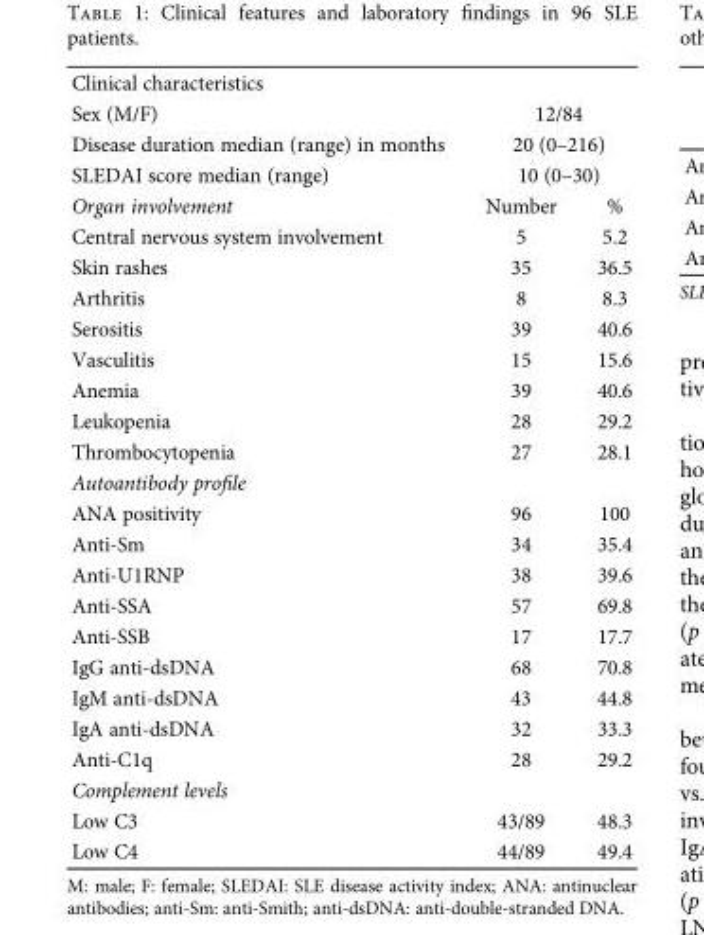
<table><tbody><tr><td colspan="3">Clinical characteristics</td></tr><tr><td>Sex (M/F)</td><td colspan="2">12/84</td></tr><tr><td>Disease duration median (range) in months</td><td colspan="2">20 (0–216)</td></tr><tr><td>SLEDAI score median (range)</td><td colspan="2">10 (0–30)</td></tr><tr><td>Organ involvement</td><td>Number</td><td>%</td></tr><tr><td>Central nervous system involvement</td><td>5</td><td>5.2</td></tr><tr><td>Skin rashes</td><td>35</td><td>36.5</td></tr><tr><td>Arthritis</td><td>8</td><td>8.3</td></tr><tr><td>Serositis</td><td>39</td><td>40.6</td></tr><tr><td>Vasculitis</td><td>15</td><td>15.6</td></tr><tr><td>Anemia</td><td>39</td><td>40.6</td></tr><tr><td>Leukopenia</td><td>28</td><td>29.2</td></tr><tr><td>Thrombocytopenia</td><td>27</td><td>28.1</td></tr><tr><td colspan="3">Autoantibody profile</td></tr><tr><td>ANA positivity</td><td>96</td><td>100</td></tr><tr><td>Anti-Sm</td><td>34</td><td>35.4</td></tr><tr><td>Anti-U1RNP</td><td>38</td><td>39.6</td></tr><tr><td>Anti-SSA</td><td>57</td><td>69.8</td></tr><tr><td>Anti-SSB</td><td>17</td><td>17.7</td></tr><tr><td>IgG anti-dsDNA</td><td>68</td><td>70.8</td></tr><tr><td>IgM anti-dsDNA</td><td>43</td><td>44.8</td></tr><tr><td>IgA anti-dsDNA</td><td>32</td><td>33.3</td></tr><tr><td>Anti-C1q</td><td>28</td><td>29.2</td></tr><tr><td colspan="3">Complement levels</td></tr><tr><td>Low C3</td><td>43/89</td><td>48.3</td></tr><tr><td>Low C4</td><td>44/89</td><td>49.4</td></tr></tbody></table>